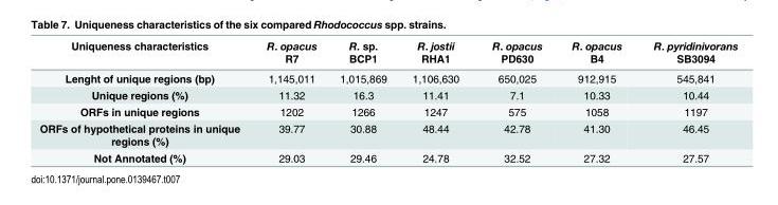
<table><thead><tr><td>Uniqueness characteristics</td><td>R. opacus R7</td><td>R. sp. BCP1</td><td>R. jostii RHA1</td><td>R. opacus PD630</td><td>R. opacus B4</td><td>R. pyridinivorans SB3094</td></tr></thead><tbody><tr><td>Lenght of unique regions (bp)</td><td>1,145,011</td><td>1,015,869</td><td>1,106,630</td><td>650,025</td><td>912,915</td><td>545,841</td></tr><tr><td>Unique regions (%)</td><td>11.32</td><td>16.3</td><td>11.41</td><td>7.1</td><td>10.33</td><td>10.44</td></tr><tr><td>ORFs in unique regions</td><td>1202</td><td>1266</td><td>1247</td><td>575</td><td>1058</td><td>1197</td></tr><tr><td>ORFs of hypothetical proteins in unique regions (%)</td><td>39.77</td><td>30.88</td><td>48.44</td><td>42.78</td><td>41.30</td><td>46.45</td></tr><tr><td>Not Annotated (%)</td><td>29.03</td><td>29.46</td><td>24.78</td><td>32.52</td><td>27.32</td><td>27.57</td></tr></tbody></table>